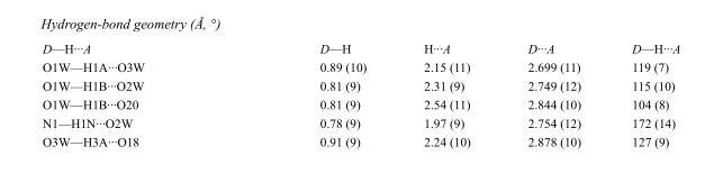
<table><tbody><tr><td>D—H···A</td><td>D—H</td><td>H···A</td><td>D···A</td><td>D—H···A</td></tr><tr><td>O1W—H1A···O3W</td><td>0.89 (10)</td><td>2.15 (11)</td><td>2.699 (11)</td><td>119 (7)</td></tr><tr><td>O1W—H1B···O2W</td><td>0.81 (9)</td><td>2.31 (9)</td><td>2.749 (12)</td><td>115 (10)</td></tr><tr><td>O1W—H1B···O20</td><td>0.81 (9)</td><td>2.54 (11)</td><td>2.844 (10)</td><td>104 (8)</td></tr><tr><td>N1—H1N···O2W</td><td>0.78 (9)</td><td>1.97 (9)</td><td>2.754 (12)</td><td>172 (14)</td></tr><tr><td>O3W—H3A···O18</td><td>0.91 (9)</td><td>2.24 (10)</td><td>2.878 (10)</td><td>127 (9)</td></tr></tbody></table>